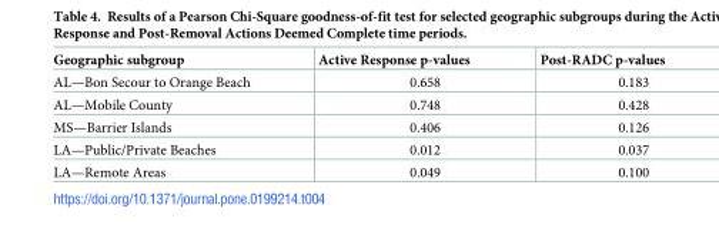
<table><thead><tr><td>Geographic subgroup</td><td>Active Response p-values</td><td>Post-RADC p-values</td></tr></thead><tbody><tr><td>AL—Bon Secour to Orange Beach</td><td>0.658</td><td>0.183</td></tr><tr><td>AL—Mobile County</td><td>0.748</td><td>0.428</td></tr><tr><td>MS—Barrier Islands</td><td>0.406</td><td>0.126</td></tr><tr><td>LA—Public/Private Beaches</td><td>0.012</td><td>0.037</td></tr><tr><td>LA—Remote Areas</td><td>0.049</td><td>0.100</td></tr></tbody></table>